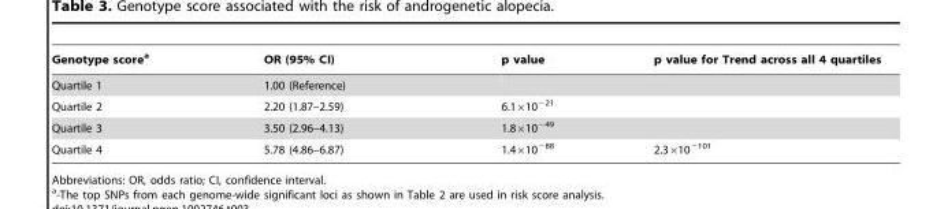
<table><thead><tr><td>Genotype score<sup>a</sup></td><td>OR (95% CI)</td><td>p value</td><td>p value for Trend across all 4 quartiles</td></tr></thead><tbody><tr><td>Quartile 1</td><td>1.00 (Reference)</td><td></td><td></td></tr><tr><td>Quartile 2</td><td>2.20 (1.87–2.59)</td><td>6.1×10<sup>−21</sup></td><td></td></tr><tr><td>Quartile 3</td><td>3.50 (2.96–4.13)</td><td>1.8×10<sup>−49</sup></td><td></td></tr><tr><td>Quartile 4</td><td>5.78 (4.86–6.87)</td><td>1.4×10<sup>−88</sup></td><td>2.3×10<sup>−101</sup></td></tr></tbody></table>